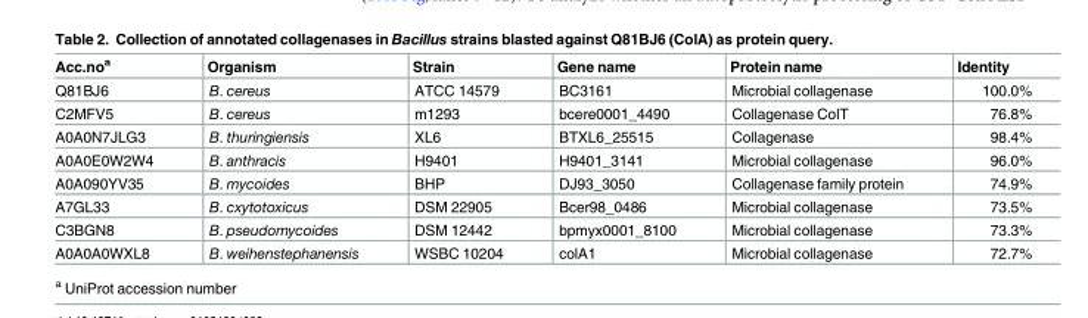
<table><thead><tr><td>Acc.no<sup>a</sup></td><td>Organism</td><td>Strain</td><td>Gene name</td><td>Protein name</td><td>Identity</td></tr></thead><tbody><tr><td>Q81BJ6</td><td>B. cereus</td><td>ATCC 14579</td><td>BC3161</td><td>Microbial collagenase</td><td>100.0%</td></tr><tr><td>C2MFV5</td><td>B. cereus</td><td>m1293</td><td>bcere0001_4490</td><td>Collagenase ColT</td><td>76.8%</td></tr><tr><td>A0A0N7JLG3</td><td>B. thuringiensis</td><td>XL6</td><td>BTXL6_25515</td><td>Collagenase</td><td>98.4%</td></tr><tr><td>A0A0E0W2W4</td><td>B. anthracis</td><td>H9401</td><td>H9401_3141</td><td>Microbial collagenase</td><td>96.0%</td></tr><tr><td>A0A090YV35</td><td>B. mycoides</td><td>BHP</td><td>DJ93_3050</td><td>Collagenase family protein</td><td>74.9%</td></tr><tr><td>A7GL33</td><td>B. cxytotoxicus</td><td>DSM 22905</td><td>Bcer98_0486</td><td>Microbial collagenase</td><td>73.5%</td></tr><tr><td>C3BGN8</td><td>B. pseudomycoides</td><td>DSM 12442</td><td>bpmyx0001_8100</td><td>Microbial collagenase</td><td>73.3%</td></tr><tr><td>A0A0A0WXL8</td><td>B. weihenstephanensis</td><td>WSBC 10204</td><td>colA1</td><td>Microbial collagenase</td><td>72.7%</td></tr></tbody></table>